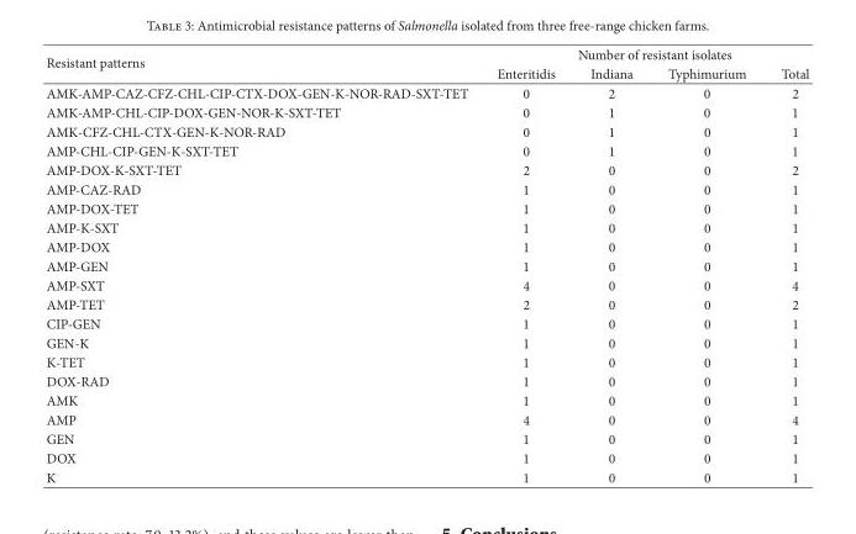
<table><thead><tr><td rowspan="2">Resistant patterns</td><td colspan="4">Number of resistant isolates</td></tr><tr><td>Enteritidis</td><td>Indiana</td><td>Typhimurium</td><td>Total</td></tr></thead><tbody><tr><td>AMK-AMP-CAZ-CFZ-CHL-CIP-CTX-DOX-GEN-K-NOR-RAD-SXT-TET</td><td>0</td><td>2</td><td>0</td><td>2</td></tr><tr><td>AMK-AMP-CHL-CIP-DOX-GEN-NOR-K-SXT-TET</td><td>0</td><td>1</td><td>0</td><td>1</td></tr><tr><td>AMK-CFZ-CHL-CTX-GEN-K-NOR-RAD</td><td>0</td><td>1</td><td>0</td><td>1</td></tr><tr><td>AMP-CHL-CIP-GEN-K-SXT-TET</td><td>0</td><td>1</td><td>0</td><td>1</td></tr><tr><td>AMP-DOX-K-SXT-TET</td><td>2</td><td>0</td><td>0</td><td>2</td></tr><tr><td>AMP-CAZ-RAD</td><td>1</td><td>0</td><td>0</td><td>1</td></tr><tr><td>AMP-DOX-TET</td><td>1</td><td>0</td><td>0</td><td>1</td></tr><tr><td>AMP-K-SXT</td><td>1</td><td>0</td><td>0</td><td>1</td></tr><tr><td>AMP-DOX</td><td>1</td><td>0</td><td>0</td><td>1</td></tr><tr><td>AMP-GEN</td><td>1</td><td>0</td><td>0</td><td>1</td></tr><tr><td>AMP-SXT</td><td>4</td><td>0</td><td>0</td><td>4</td></tr><tr><td>AMP-TET</td><td>2</td><td>0</td><td>0</td><td>2</td></tr><tr><td>CIP-GEN</td><td>1</td><td>0</td><td>0</td><td>1</td></tr><tr><td>GEN-K</td><td>1</td><td>0</td><td>0</td><td>1</td></tr><tr><td>K-TET</td><td>1</td><td>0</td><td>0</td><td>1</td></tr><tr><td>DOX-RAD</td><td>1</td><td>0</td><td>0</td><td>1</td></tr><tr><td>AMK</td><td>1</td><td>0</td><td>0</td><td>1</td></tr><tr><td>AMP</td><td>4</td><td>0</td><td>0</td><td>4</td></tr><tr><td>GEN</td><td>1</td><td>0</td><td>0</td><td>1</td></tr><tr><td>DOX</td><td>1</td><td>0</td><td>0</td><td>1</td></tr><tr><td>K</td><td>1</td><td>0</td><td>0</td><td>1</td></tr></tbody></table>